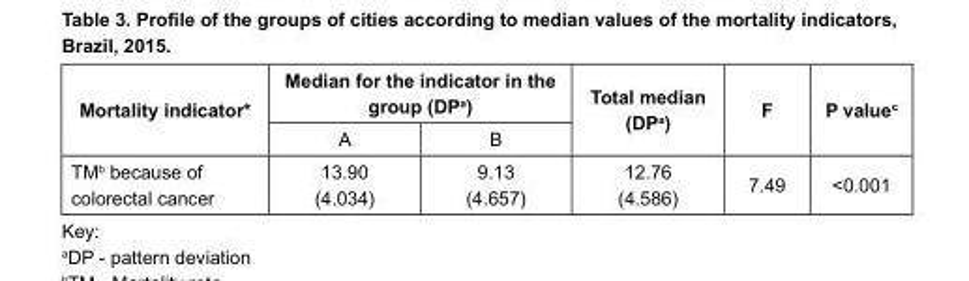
<table><thead><tr><td rowspan="2">Mortality indicator*</td><td colspan="2">Median for the indicator in the group (DP<sup>a</sup>)</td><td rowspan="2">Total median (DP<sup>a</sup>)</td><td rowspan="2">F</td><td rowspan="2">P value<sup>c</sup></td></tr><tr><td>A</td><td>B</td></tr></thead><tbody><tr><td>TM<sup>b</sup> because of colorectal cancer</td><td>13.90 (4.034)</td><td>9.13 (4.657)</td><td>12.76 (4.586)</td><td>7.49</td><td>&lt;0.001</td></tr></tbody></table>